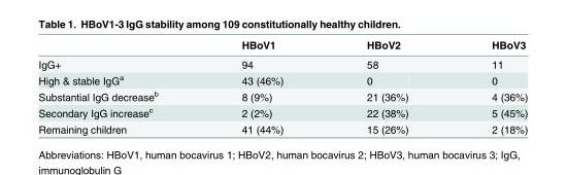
<table><thead><tr><td></td><td>HBoV1</td><td>HBoV2</td><td>HBoV3</td></tr></thead><tbody><tr><td>IgG+</td><td>94</td><td>58</td><td>11</td></tr><tr><td>High &amp; stable IgG<sup>a</sup></td><td>43 (46%)</td><td>0</td><td>0</td></tr><tr><td>Substantial IgG decrease<sup>b</sup></td><td>8 (9%)</td><td>21 (36%)</td><td>4 (36%)</td></tr><tr><td>Secondary IgG increase<sup>c</sup></td><td>2 (2%)</td><td>22 (38%)</td><td>5 (45%)</td></tr><tr><td>Remaining children</td><td>41 (44%)</td><td>15 (26%)</td><td>2 (18%)</td></tr></tbody></table>